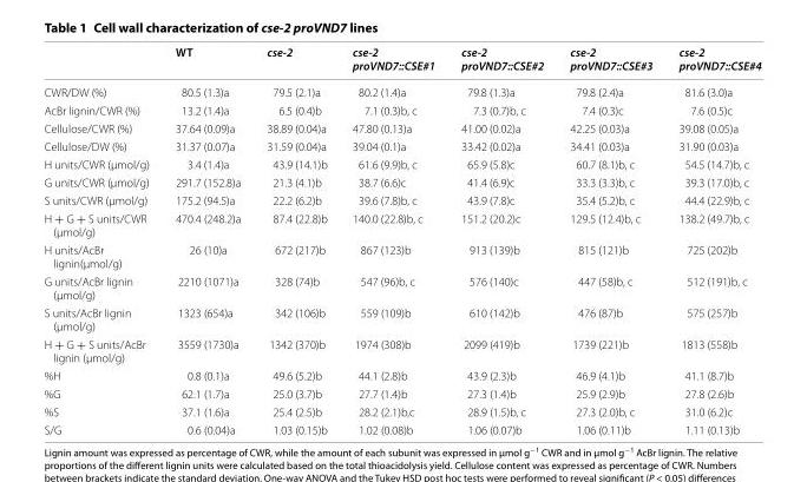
<table><thead><tr><td></td><td>WT</td><td>cse‑2</td><td>cse‑2 proVND7::CSE#1</td><td>cse‑2 proVND7::CSE#2</td><td>cse‑2 proVND7::CSE#3</td><td>cse‑2 proVND7::CSE#4</td></tr></thead><tbody><tr><td>CWR/DW (%)</td><td>80.5 (1.3)a</td><td>79.5 (2.1)a</td><td>80.2 (1.4)a</td><td>79.8 (1.3)a</td><td>79.8 (2.4)a</td><td>81.6 (3.0)a</td></tr><tr><td>AcBr lignin/CWR (%)</td><td>13.2 (1.4)a</td><td>6.5 (0.4)b</td><td>7.1 (0.3)b, c</td><td>7.3 (0.7)b, c</td><td>7.4 (0.3)c</td><td>7.6 (0.5)c</td></tr><tr><td>Cellulose/CWR (%)</td><td>37.64 (0.09)a</td><td>38.89 (0.04)a</td><td>47.80 (0.13)a</td><td>41.00 (0.02)a</td><td>42.25 (0.03)a</td><td>39.08 (0.05)a</td></tr><tr><td>Cellulose/DW (%)</td><td>31.37 (0.07)a</td><td>31.59 (0.04)a</td><td>39.04 (0.1)a</td><td>33.42 (0.02)a</td><td>34.41 (0.03)a</td><td>31.90 (0.03)a</td></tr><tr><td>H units/CWR (µmol/g)</td><td>3.4 (1.4)a</td><td>43.9 (14.1)b</td><td>61.6 (9.9)b, c</td><td>65.9 (5.8)c</td><td>60.7 (8.1)b, c</td><td>54.5 (14.7)b, c</td></tr><tr><td>G units/CWR (µmol/g)</td><td>291.7 (152.8)a</td><td>21.3 (4.1)b</td><td>38.7 (6.6)c</td><td>41.4 (6.9)c</td><td>33.3 (3.3)b, c</td><td>39.3 (17.0)b, c</td></tr><tr><td>S units/CWR (µmol/g)</td><td>175.2 (94.5)a</td><td>22.2 (6.2)b</td><td>39.6 (7.8)b, c</td><td>43.9 (7.8)c</td><td>35.4 (5.2)b, c</td><td>44.4 (22.9)b, c</td></tr><tr><td>H + G + S units/CWR (µmol/g)</td><td>470.4 (248.2)a</td><td>87.4 (22.8)b</td><td>140.0 (22.8)b, c</td><td>151.2 (20.2)c</td><td>129.5 (12.4)b, c</td><td>138.2 (49.7)b, c</td></tr><tr><td>H units/AcBr lignin(µmol/g)</td><td>26 (10)a</td><td>672 (217)b</td><td>867 (123)b</td><td>913 (139)b</td><td>815 (121)b</td><td>725 (202)b</td></tr><tr><td>G units/AcBr lignin (µmol/g)</td><td>2210 (1071)a</td><td>328 (74)b</td><td>547 (96)b, c</td><td>576 (140)c</td><td>447 (58)b, c</td><td>512 (191)b, c</td></tr><tr><td>S units/AcBr lignin (µmol/g)</td><td>1323 (654)a</td><td>342 (106)b</td><td>559 (109)b</td><td>610 (142)b</td><td>476 (87)b</td><td>575 (257)b</td></tr><tr><td>H + G + S units/AcBr lignin (µmol/g)</td><td>3559 (1730)a</td><td>1342 (370)b</td><td>1974 (308)b</td><td>2099 (419)b</td><td>1739 (221)b</td><td>1813 (558)b</td></tr><tr><td>%H</td><td>0.8 (0.1)a</td><td>49.6 (5.2)b</td><td>44.1 (2.8)b</td><td>43.9 (2.3)b</td><td>46.9 (4.1)b</td><td>41.1 (8.7)b</td></tr><tr><td>%G</td><td>62.1 (1.7)a</td><td>25.0 (3.7)b</td><td>27.7 (1.4)b</td><td>27.3 (1.4)b</td><td>25.9 (2.9)b</td><td>27.8 (2.6)b</td></tr><tr><td>%S</td><td>37.1 (1.6)a</td><td>25.4 (2.5)b</td><td>28.2 (2.1)b,c</td><td>28.9 (1.5)b, c</td><td>27.3 (2.0)b, c</td><td>31.0 (6.2)c</td></tr><tr><td>S/G</td><td>0.6 (0.04)a</td><td>1.03 (0.15)b</td><td>1.02 (0.08)b</td><td>1.06 (0.07)b</td><td>1.06 (0.11)b</td><td>1.11 (0.13)b</td></tr></tbody></table>